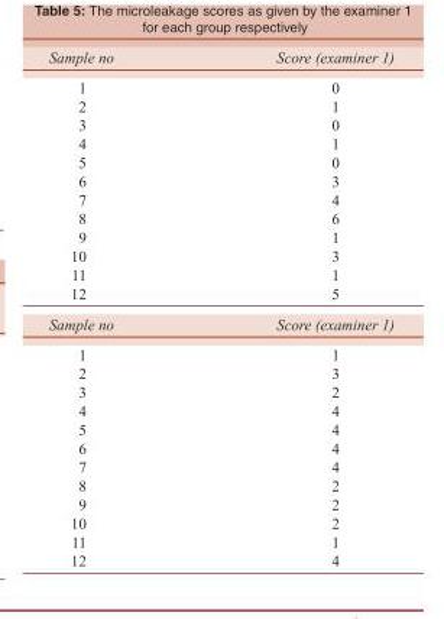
<table><tbody><tr><td>Sample no</td><td>Score (examiner 1)</td></tr><tr><td>1</td><td>0</td></tr><tr><td>2</td><td>1</td></tr><tr><td>3</td><td>0</td></tr><tr><td>4</td><td>1</td></tr><tr><td>5</td><td>0</td></tr><tr><td>6</td><td>3</td></tr><tr><td>7</td><td>4</td></tr><tr><td>8</td><td>6</td></tr><tr><td>9</td><td>1</td></tr><tr><td>10</td><td>3</td></tr><tr><td>11</td><td>1</td></tr><tr><td>12</td><td>5</td></tr><tr><td>Sample no</td><td>Score (examiner 1)</td></tr><tr><td>1</td><td>1</td></tr><tr><td>2</td><td>3</td></tr><tr><td>3</td><td>2</td></tr><tr><td>4</td><td>4</td></tr><tr><td>5</td><td>4</td></tr><tr><td>6</td><td>4</td></tr><tr><td>7</td><td>4</td></tr><tr><td>8</td><td>2</td></tr><tr><td>9</td><td>2</td></tr><tr><td>10</td><td>2</td></tr><tr><td>11</td><td>1</td></tr><tr><td>12</td><td>4</td></tr></tbody></table>